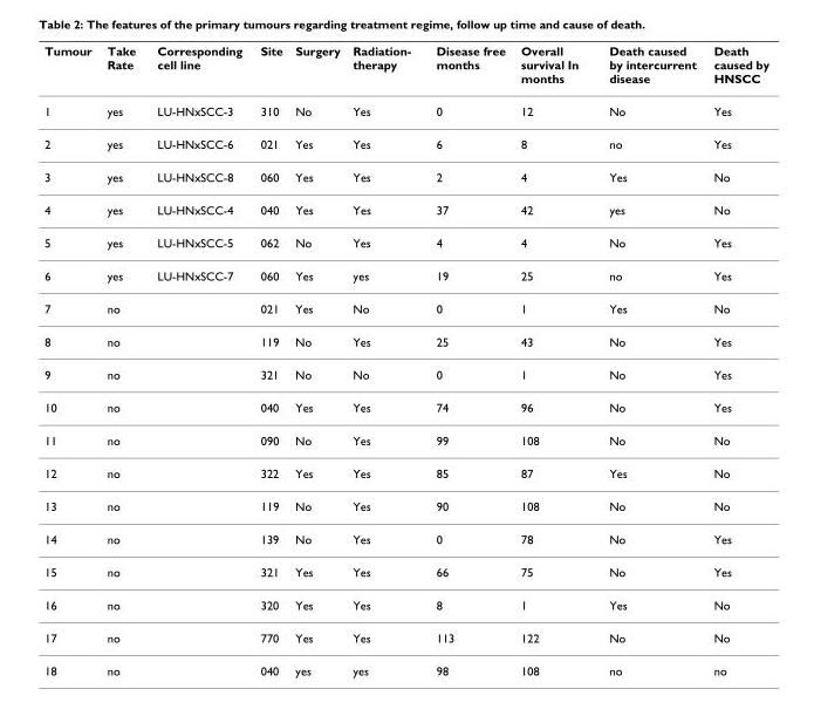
<table><thead><tr><td>Tumour</td><td>Take Rate</td><td>Corresponding cell line</td><td>Site</td><td>Surgery</td><td>Radiation- therapy</td><td>Disease free months</td><td>Overall survival In months</td><td>Death caused by intercurrent disease</td><td>Death caused by HNSCC</td></tr></thead><tbody><tr><td>1</td><td>yes</td><td>LU-HNxSCC-3</td><td>310</td><td>No</td><td>Yes</td><td>0</td><td>12</td><td>No</td><td>Yes</td></tr><tr><td>2</td><td>yes</td><td>LU-HNxSCC-6</td><td>021</td><td>Yes</td><td>Yes</td><td>6</td><td>8</td><td>no</td><td>Yes</td></tr><tr><td>3</td><td>yes</td><td>LU-HNxSCC-8</td><td>060</td><td>Yes</td><td>Yes</td><td>2</td><td>4</td><td>Yes</td><td>No</td></tr><tr><td>4</td><td>yes</td><td>LU-HNxSCC-4</td><td>040</td><td>Yes</td><td>Yes</td><td>37</td><td>42</td><td>yes</td><td>No</td></tr><tr><td>5</td><td>yes</td><td>LU-HNxSCC-5</td><td>062</td><td>No</td><td>Yes</td><td>4</td><td>4</td><td>No</td><td>Yes</td></tr><tr><td>6</td><td>yes</td><td>LU-HNxSCC-7</td><td>060</td><td>Yes</td><td>yes</td><td>19</td><td>25</td><td>no</td><td>Yes</td></tr><tr><td>7</td><td>no</td><td></td><td>021</td><td>Yes</td><td>No</td><td>0</td><td>1</td><td>Yes</td><td>No</td></tr><tr><td>8</td><td>no</td><td></td><td>119</td><td>No</td><td>Yes</td><td>25</td><td>43</td><td>No</td><td>Yes</td></tr><tr><td>9</td><td>no</td><td></td><td>321</td><td>No</td><td>No</td><td>0</td><td>1</td><td>No</td><td>Yes</td></tr><tr><td>10</td><td>no</td><td></td><td>040</td><td>Yes</td><td>Yes</td><td>74</td><td>96</td><td>No</td><td>Yes</td></tr><tr><td>11</td><td>no</td><td></td><td>090</td><td>No</td><td>Yes</td><td>99</td><td>108</td><td>No</td><td>No</td></tr><tr><td>12</td><td>no</td><td></td><td>322</td><td>Yes</td><td>Yes</td><td>85</td><td>87</td><td>Yes</td><td>No</td></tr><tr><td>13</td><td>no</td><td></td><td>119</td><td>No</td><td>Yes</td><td>90</td><td>108</td><td>No</td><td>No</td></tr><tr><td>14</td><td>no</td><td></td><td>139</td><td>No</td><td>Yes</td><td>0</td><td>78</td><td>No</td><td>Yes</td></tr><tr><td>15</td><td>no</td><td></td><td>321</td><td>Yes</td><td>Yes</td><td>66</td><td>75</td><td>No</td><td>Yes</td></tr><tr><td>16</td><td>no</td><td></td><td>320</td><td>Yes</td><td>Yes</td><td>8</td><td>1</td><td>Yes</td><td>No</td></tr><tr><td>17</td><td>no</td><td></td><td>770</td><td>Yes</td><td>Yes</td><td>113</td><td>122</td><td>No</td><td>No</td></tr><tr><td>18</td><td>no</td><td></td><td>040</td><td>yes</td><td>yes</td><td>98</td><td>108</td><td>no</td><td>no</td></tr></tbody></table>